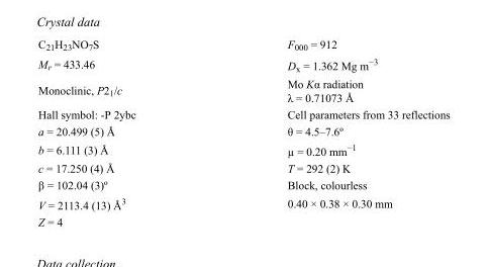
<table><tbody><tr><td>C<sub>21</sub>H<sub>23</sub>NO<sub>7</sub>S</td><td>F<sub>000</sub> = 912</td></tr><tr><td>M<sub>r</sub> = 433.46</td><td>D<sub>x</sub> = 1.362 Mg m<sup>−3</sup></td></tr><tr><td>Monoclinic, P2<sub>1</sub>/c</td><td>Mo Kα radiation λ = 0.71073 Å</td></tr><tr><td>Hall symbol: -P 2ybc</td><td>Cell parameters from 33 reflections</td></tr><tr><td>a = 20.499 (5) Å</td><td>θ = 4.5–7.6º</td></tr><tr><td>b = 6.111 (3) Å</td><td>µ = 0.20 mm<sup>−1</sup></td></tr><tr><td>c = 17.250 (4) Å</td><td>T = 292 (2) K</td></tr><tr><td>β = 102.04 (3)º</td><td>Block, colourless</td></tr><tr><td>V = 2113.4 (13) Å<sup>3</sup></td><td>0.40 × 0.38 × 0.30 mm</td></tr><tr><td>Z = 4</td><td></td></tr></tbody></table>